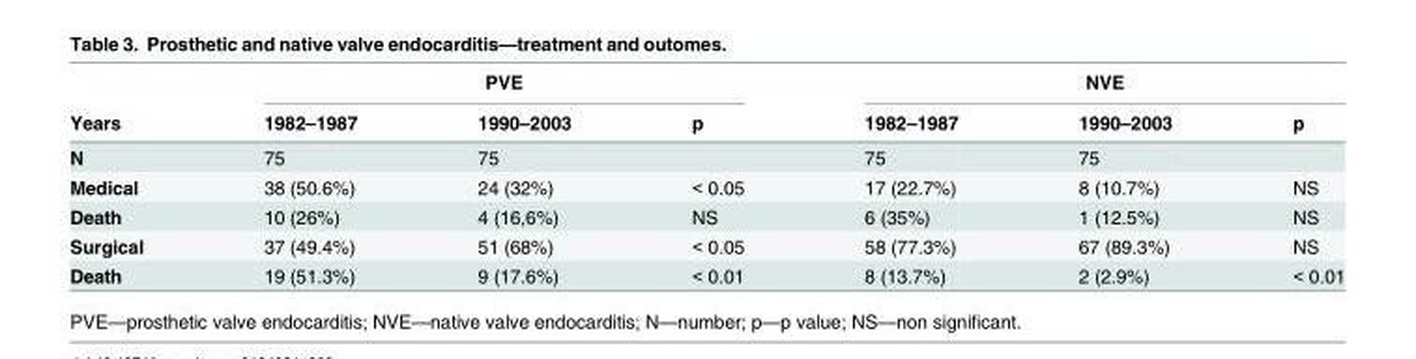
<table><thead><tr><td rowspan="2">Years</td><td colspan="3">PVE</td><td colspan="3">NVE</td></tr><tr><td>1982–1987</td><td>1990–2003</td><td>p</td><td>1982–1987</td><td>1990–2003</td><td>p</td></tr></thead><tbody><tr><td>N</td><td>75</td><td>75</td><td></td><td>75</td><td>75</td><td></td></tr><tr><td>Medical</td><td>38 (50.6%)</td><td>24 (32%)</td><td>&lt; 0.05</td><td>17 (22.7%)</td><td>8 (10.7%)</td><td>NS</td></tr><tr><td>Death</td><td>10 (26%)</td><td>4 (16,6%)</td><td>NS</td><td>6 (35%)</td><td>1 (12.5%)</td><td>NS</td></tr><tr><td>Surgical</td><td>37 (49.4%)</td><td>51 (68%)</td><td>&lt; 0.05</td><td>58 (77.3%)</td><td>67 (89.3%)</td><td>NS</td></tr><tr><td>Death</td><td>19 (51.3%)</td><td>9 (17.6%)</td><td>&lt; 0.01</td><td>8 (13.7%)</td><td>2 (2.9%)</td><td>&lt; 0.01</td></tr></tbody></table>